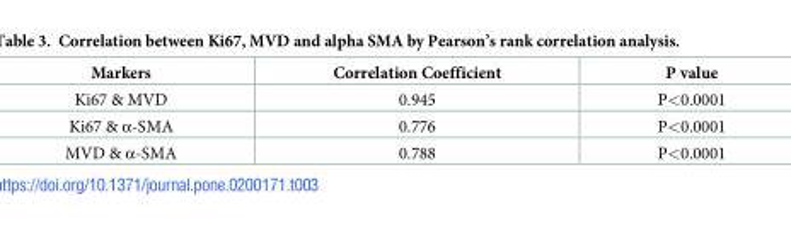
<table><thead><tr><td>Markers</td><td>Correlation Coefficient</td><td>P value</td></tr></thead><tbody><tr><td>Ki67 &amp; MVD</td><td>0.945</td><td>P&lt;0.0001</td></tr><tr><td>Ki67 &amp; α-SMA</td><td>0.776</td><td>P&lt;0.0001</td></tr><tr><td>MVD &amp; α-SMA</td><td>0.788</td><td>P&lt;0.0001</td></tr></tbody></table>